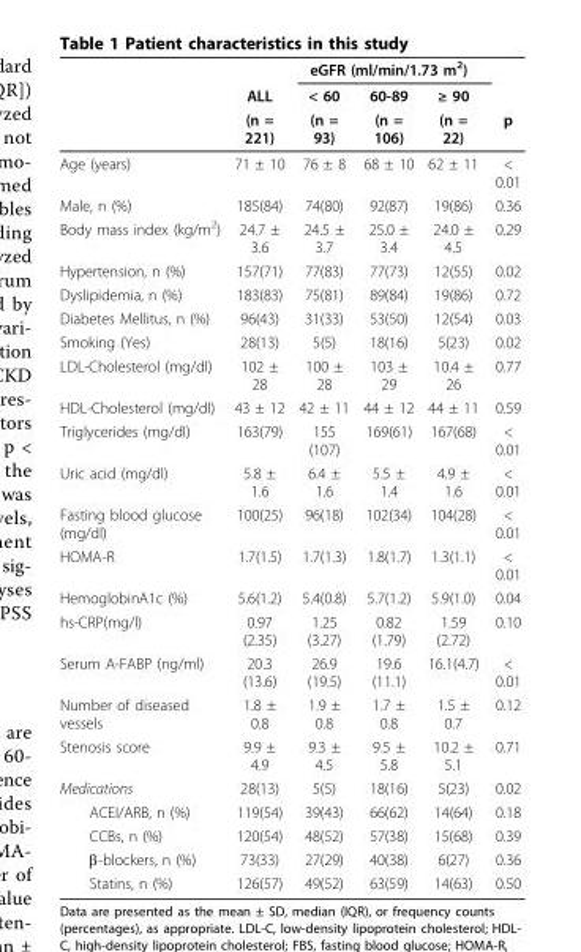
<table><thead><tr><td rowspan="3"></td><td rowspan="3">ALL (n = 221)</td><td colspan="3">eGFR (ml/min/1.73 m<sup>2</sup>)</td><td rowspan="3">p</td></tr><tr><td rowspan="2">&lt; 60 (n = 93)</td><td rowspan="2">60-89 (n = 106)</td><td rowspan="2">≥ 90 (n = 22)</td></tr><tr></tr></thead><tbody><tr><td>Age (years)</td><td>71 ± 10</td><td>76 ± 8</td><td>68 ± 10</td><td>62 ± 11</td><td>&lt; 0.01</td></tr><tr><td>Male, n (%)</td><td>185(84)</td><td>74(80)</td><td>92(87)</td><td>19(86)</td><td>0.36</td></tr><tr><td>Body mass index (kg/m<sup>2</sup>)</td><td>24.7 ± 3.6</td><td>24.5 ± 3.7</td><td>25.0 ± 3.4</td><td>24.0 ± 4.5</td><td>0.29</td></tr><tr><td>Hypertension, n (%)</td><td>157(71)</td><td>77(83)</td><td>77(73)</td><td>12(55)</td><td>0.02</td></tr><tr><td>Dyslipidemia, n (%)</td><td>183(83)</td><td>75(81)</td><td>89(84)</td><td>19(86)</td><td>0.72</td></tr><tr><td>Diabetes Mellitus, n (%)</td><td>96(43)</td><td>31(33)</td><td>53(50)</td><td>12(54)</td><td>0.03</td></tr><tr><td>Smoking (Yes)</td><td>28(13)</td><td>5(5)</td><td>18(16)</td><td>5(23)</td><td>0.02</td></tr><tr><td>LDL-Cholesterol (mg/dl)</td><td>102 ± 28</td><td>100 ± 28</td><td>103 ± 29</td><td>10.4 ± 26</td><td>0.77</td></tr><tr><td>HDL-Cholesterol (mg/dl)</td><td>43 ± 12</td><td>42 ± 11</td><td>44 ± 12</td><td>44 ± 11</td><td>0.59</td></tr><tr><td>Triglycerides (mg/dl)</td><td>163(79)</td><td>155 (107)</td><td>169(61)</td><td>167(68)</td><td>&lt; 0.01</td></tr><tr><td>Uric acid (mg/dl)</td><td>5.8 ± 1.6</td><td>6.4 ± 1.6</td><td>5.5 ± 1.4</td><td>4.9 ± 1.6</td><td>&lt; 0.01</td></tr><tr><td>Fasting blood glucose (mg/dl)</td><td>100(25)</td><td>96(18)</td><td>102(34)</td><td>104(28)</td><td>&lt; 0.01</td></tr><tr><td>HOMA-R</td><td>1.7(1.5)</td><td>1.7(1.3)</td><td>1.8(1.7)</td><td>1.3(1.1)</td><td>&lt; 0.01</td></tr><tr><td>HemoglobinA1c (%)</td><td>5.6(1.2)</td><td>5.4(0.8)</td><td>5.7(1.2)</td><td>5.9(1.0)</td><td>0.04</td></tr><tr><td>hs-CRP(mg/l)</td><td>0.97 (2.35)</td><td>1.25 (3.27)</td><td>0.82 (1.79)</td><td>1.59 (2.72)</td><td>0.10</td></tr><tr><td>Serum A-FABP (ng/ml)</td><td>20.3 (13.6)</td><td>26.9 (19.5)</td><td>19.6 (11.1)</td><td>16.1(4.7)</td><td>&lt; 0.01</td></tr><tr><td>Number of diseased vessels</td><td>1.8 ± 0.8</td><td>1.9 ± 0.8</td><td>1.7 ± 0.8</td><td>1.5 ± 0.7</td><td>0.12</td></tr><tr><td>Stenosis score</td><td>9.9 ± 4.9</td><td>9.3 ± 4.5</td><td>9.5 ± 5.8</td><td>10.2 ± 5.1</td><td>0.71</td></tr><tr><td>Medications</td><td>28(13)</td><td>5(5)</td><td>18(16)</td><td>5(23)</td><td>0.02</td></tr><tr><td>ACEI/ARB, n (%)</td><td>119(54)</td><td>39(43)</td><td>66(62)</td><td>14(64)</td><td>0.18</td></tr><tr><td>CCBs, n (%)</td><td>120(54)</td><td>48(52)</td><td>57(38)</td><td>15(68)</td><td>0.39</td></tr><tr><td>β-blockers, n (%)</td><td>73(33)</td><td>27(29)</td><td>40(38)</td><td>6(27)</td><td>0.36</td></tr><tr><td>Statins, n (%)</td><td>126(57)</td><td>49(52)</td><td>63(59)</td><td>14(63)</td><td>0.50</td></tr></tbody></table>